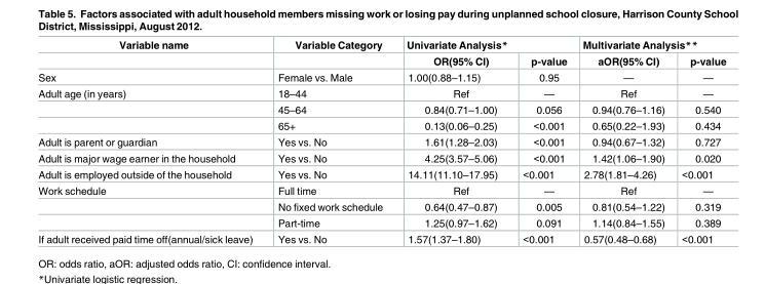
<table><thead><tr><td rowspan="2">Variable name</td><td rowspan="2">Variable Category</td><td colspan="2">Univariate Analysis*</td><td colspan="2">Multivariate Analysis**</td></tr><tr><td>OR(95% CI)</td><td>p-value</td><td>aOR(95% CI)</td><td>p-value</td></tr></thead><tbody><tr><td>Sex</td><td>Female vs. Male</td><td>1.00(0.88–1.15)</td><td>0.95</td><td>—</td><td>—</td></tr><tr><td rowspan="3">Adult age (in years)</td><td>18–44</td><td>Ref</td><td>—</td><td>Ref</td><td>—</td></tr><tr><td>45–64</td><td>0.84(0.71–1.00)</td><td>0.056</td><td>0.94(0.76–1.16)</td><td>0.540</td></tr><tr><td>65+</td><td>0.13(0.06–0.25)</td><td>&lt;0.001</td><td>0.65(0.22–1.93)</td><td>0.434</td></tr><tr><td>Adult is parent or guardian</td><td>Yes vs. No</td><td>1.61(1.28–2.03)</td><td>&lt;0.001</td><td>0.94(0.67–1.32)</td><td>0.727</td></tr><tr><td>Adult is major wage earner in the household</td><td>Yes vs. No</td><td>4.25(3.57–5.06)</td><td>&lt;0.001</td><td>1.42(1.06–1.90)</td><td>0.020</td></tr><tr><td>Adult is employed outside of the household</td><td>Yes vs. No</td><td>14.11(11.10–17.95)</td><td>&lt;0.001</td><td>2.78(1.81–4.26)</td><td>&lt;0.001</td></tr><tr><td rowspan="3">Work schedule</td><td>Full time</td><td>Ref</td><td>—</td><td>Ref</td><td>—</td></tr><tr><td>No fixed work schedule</td><td>0.64(0.47–0.87)</td><td>0.005</td><td>0.81(0.54–1.22)</td><td>0.319</td></tr><tr><td>Part-time</td><td>1.25(0.97–1.62)</td><td>0.091</td><td>1.14(0.84–1.55)</td><td>0.389</td></tr><tr><td>If adult received paid time off(annual/sick leave)</td><td>Yes vs. No</td><td>1.57(1.37–1.80)</td><td>&lt;0.001</td><td>0.57(0.48–0.68)</td><td>&lt;0.001</td></tr></tbody></table>